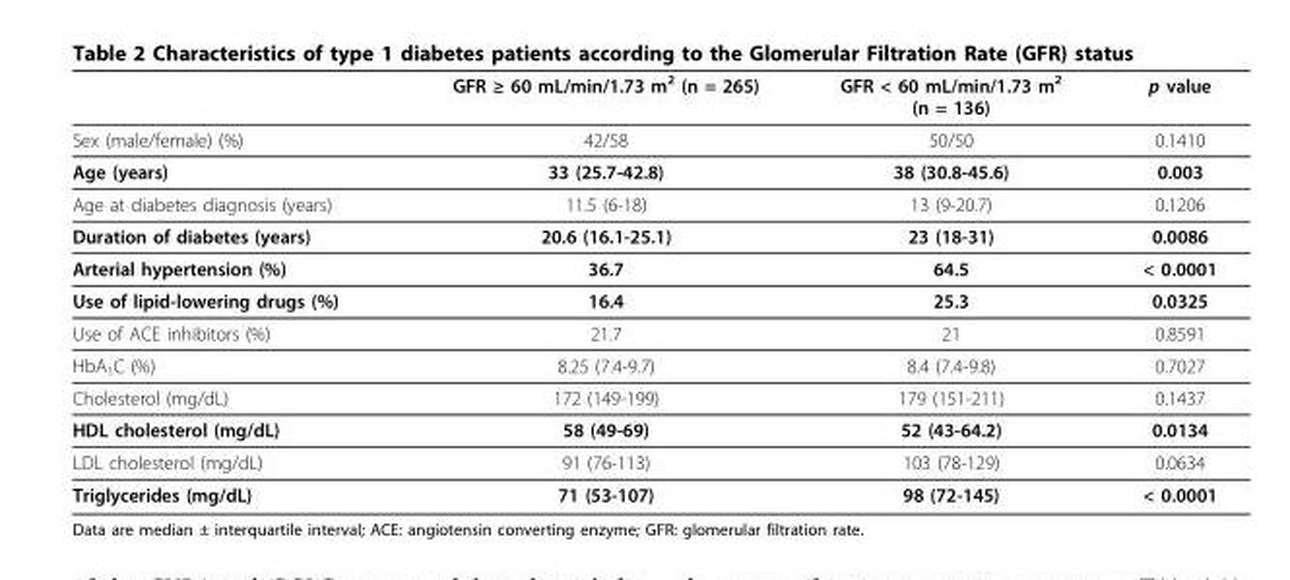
<table><thead><tr><td></td><td>GFR ≥ 60 mL/min/1.73 m<sup>2</sup> (n = 265)</td><td>GFR &lt; 60 mL/min/1.73 m<sup>2</sup> (n = 136)</td><td>p value</td></tr></thead><tbody><tr><td>Sex (male/female) (%)</td><td>42/58</td><td>50/50</td><td>0.1410</td></tr><tr><td>Age (years)</td><td>33 (25.7-42.8)</td><td>38 (30.8-45.6)</td><td>0.003</td></tr><tr><td>Age at diabetes diagnosis (years)</td><td>11.5 (6-18)</td><td>13 (9-20.7)</td><td>0.1206</td></tr><tr><td>Duration of diabetes (years)</td><td>20.6 (16.1-25.1)</td><td>23 (18-31)</td><td>0.0086</td></tr><tr><td>Arterial hypertension (%)</td><td>36.7</td><td>64.5</td><td>&lt; 0.0001</td></tr><tr><td>Use of lipid-lowering drugs (%)</td><td>16.4</td><td>25.3</td><td>0.0325</td></tr><tr><td>Use of ACE inhibitors (%)</td><td>21.7</td><td>21</td><td>0.8591</td></tr><tr><td>HbA<sub>1</sub>C (%)</td><td>8.25 (7.4-9.7)</td><td>8.4 (7.4-9.8)</td><td>0.7027</td></tr><tr><td>Cholesterol (mg/dL)</td><td>172 (149-199)</td><td>179 (151-211)</td><td>0.1437</td></tr><tr><td>HDL cholesterol (mg/dL)</td><td>58 (49-69)</td><td>52 (43-64.2)</td><td>0.0134</td></tr><tr><td>LDL cholesterol (mg/dL)</td><td>91 (76-113)</td><td>103 (78-129)</td><td>0.0634</td></tr><tr><td>Triglycerides (mg/dL)</td><td>71 (53-107)</td><td>98 (72-145)</td><td>&lt; 0.0001</td></tr></tbody></table>